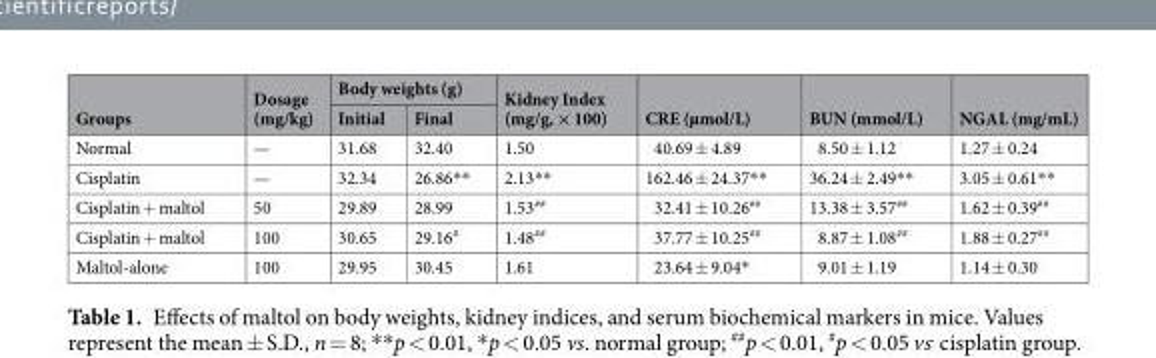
<table><thead><tr><td rowspan="2">Groups</td><td rowspan="2">Dosage (mg/kg)</td><td colspan="2">Body weights (g)</td><td rowspan="2">Kidney Index (mg/g, × 100)</td><td rowspan="2">CRE (µmol/L)</td><td rowspan="2">BUN (mmol/L)</td><td rowspan="2">NGAL (mg/mL)</td></tr><tr><td>Initial</td><td>Final</td></tr></thead><tbody><tr><td>Normal</td><td>—</td><td>31.68</td><td>32.40</td><td>1.50</td><td>40.69 ± 4.89</td><td>8.50 ± 1.12</td><td>1.27 ± 0.24</td></tr><tr><td>Cisplatin</td><td>—</td><td>32.34</td><td>26.86**</td><td>2.13**</td><td>162.46 ± 24.37**</td><td>36.24 ± 2.49**</td><td>3.05 ± 0.61**</td></tr><tr><td>Cisplatin + maltol</td><td>50</td><td>29.89</td><td>28.99</td><td>1.53<sup>##</sup></td><td>32.41 ± 10.26<sup>##</sup></td><td>13.38 ± 3.57<sup>##</sup></td><td>1.62 ± 0.39<sup>##</sup></td></tr><tr><td>Cisplatin + maltol</td><td>100</td><td>30.65</td><td>29.16<sup>#</sup></td><td>1.48<sup>##</sup></td><td>37.77 ± 10.25<sup>##</sup></td><td>8.87 ± 1.08<sup>##</sup></td><td>1.88 ± 0.27<sup>##</sup></td></tr><tr><td>Maltol-alone</td><td>100</td><td>29.95</td><td>30.45</td><td>1.61</td><td>23.64 ± 9.04*</td><td>9.01 ± 1.19</td><td>1.14 ± 0.30</td></tr></tbody></table>